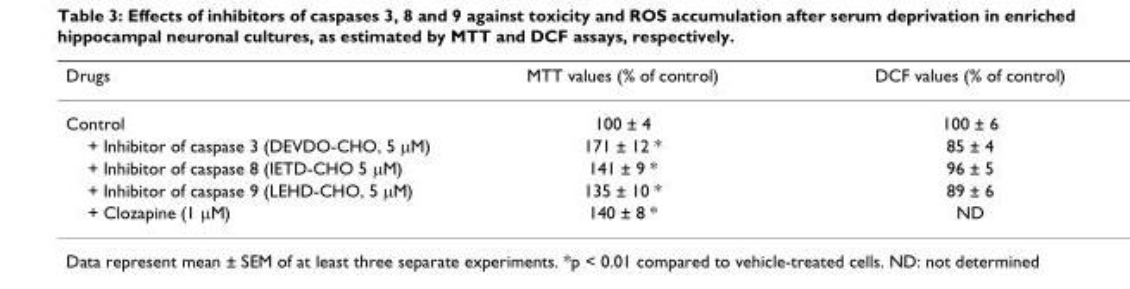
<table><thead><tr><td>Drugs</td><td>MTT values (% of control)</td><td>DCF values (% of control)</td></tr></thead><tbody><tr><td>Control</td><td>100 ± 4</td><td>100 ± 6</td></tr><tr><td>+ Inhibitor of caspase 3 (DEVDO-CHO, 5 µM)</td><td>171 ± 12 *</td><td>85 ± 4</td></tr><tr><td>+ Inhibitor of caspase 8 (IETD-CHO 5 µM)</td><td>141 ± 9 *</td><td>96 ± 5</td></tr><tr><td>+ Inhibitor of caspase 9 (LEHD-CHO, 5 µM)</td><td>135 ± 10 *</td><td>89 ± 6</td></tr><tr><td>+ Clozapine (1 µM)</td><td>140 ± 8 *</td><td>ND</td></tr></tbody></table>